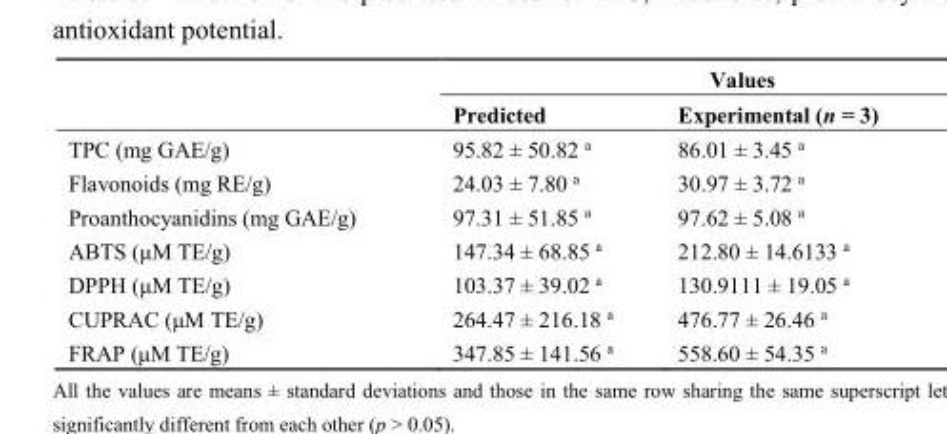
<table><thead><tr><td rowspan="2"></td><td colspan="2">Values</td></tr><tr><td>Predicted</td><td>Experimental (n = 3)</td></tr></thead><tbody><tr><td>TPC (mg GAE/g)</td><td>95.82 ± 50.82 <sup>a</sup></td><td>86.01 ± 3.45 <sup>a</sup></td></tr><tr><td>Flavonoids (mg RE/g)</td><td>24.03 ± 7.80 <sup>a</sup></td><td>30.97 ± 3.72 <sup>a</sup></td></tr><tr><td>Proanthocyanidins (mg GAE/g)</td><td>97.31 ± 51.85 <sup>a</sup></td><td>97.62 ± 5.08 <sup>a</sup></td></tr><tr><td>ABTS (μM TE/g)</td><td>147.34 ± 68.85 <sup>a</sup></td><td>212.80 ± 14.6133 <sup>a</sup></td></tr><tr><td>DPPH (μM TE/g)</td><td>103.37 ± 39.02 <sup>a</sup></td><td>130.9111 ± 19.05 <sup>a</sup></td></tr><tr><td>CUPRAC (μM TE/g)</td><td>264.47 ± 216.18 <sup>a</sup></td><td>476.77 ± 26.46 <sup>a</sup></td></tr><tr><td>FRAP (μM TE/g)</td><td>347.85 ± 141.56 <sup>a</sup></td><td>558.60 ± 54.35 <sup>a</sup></td></tr></tbody></table>